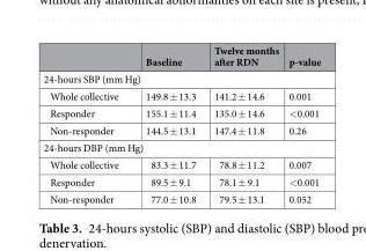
<table><thead><tr><td></td><td>Baseline</td><td>Twelve months after RDN</td><td>p-value</td></tr></thead><tbody><tr><td colspan="4">24-hours SBP (mm Hg)</td></tr><tr><td>Whole collective</td><td>149.8 ± 13.3</td><td>141.2 ± 14.6</td><td>0.001</td></tr><tr><td>Responder</td><td>155.1 ± 11.4</td><td>135.0 ± 14.6</td><td>&lt;0.001</td></tr><tr><td>Non-responder</td><td>144.5 ± 13.1</td><td>147.4 ± 11.8</td><td>0.26</td></tr><tr><td colspan="4">24-hours DBP (mm Hg)</td></tr><tr><td>Whole collective</td><td>83.3 ± 11.7</td><td>78.8 ± 11.2</td><td>0.007</td></tr><tr><td>Responder</td><td>89.5 ± 9.1</td><td>78.1 ± 9.1</td><td>&lt;0.001</td></tr><tr><td>Non-responder</td><td>77.0 ± 10.8</td><td>79.5 ± 13.1</td><td>0.052</td></tr></tbody></table>